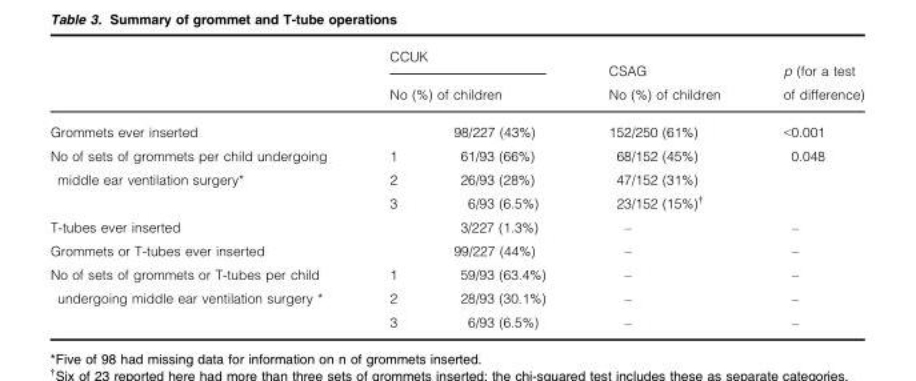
<table><thead><tr><td rowspan="3">Grommets ever inserted</td><td rowspan="2" colspan="2">CCUK No (%) of children</td><td rowspan="3">CSAG No (%) of children 152/250 (61%)</td><td rowspan="3">p (for a test of difference) &lt;0.001</td></tr><tr></tr><tr><td></td><td>98/227 (43%)</td></tr></thead><tbody><tr><td rowspan="3">No of sets of grommets per child undergoing middle ear ventilation surgery*</td><td>1</td><td>61/93 (66%)</td><td>68/152 (45%)</td><td rowspan="3">0.048</td></tr><tr><td>2</td><td>26/93 (28%)</td><td>47/152 (31%)</td></tr><tr><td>3</td><td>6/93 (6.5%)</td><td>23/152 (15%)†</td></tr><tr><td>T-tubes ever inserted</td><td></td><td>3/227 (1.3%)</td><td>–</td><td>–</td></tr><tr><td>Grommets or T-tubes ever inserted</td><td></td><td>99/227 (44%)</td><td>–</td><td>–</td></tr><tr><td rowspan="3">No of sets of grommets or T-tubes per child undergoing middle ear ventilation surgery *</td><td>1</td><td>59/93 (63.4%)</td><td>–</td><td>–</td></tr><tr><td>2</td><td>28/93 (30.1%)</td><td>–</td><td>–</td></tr><tr><td>3</td><td>6/93 (6.5%)</td><td>–</td><td>–</td></tr></tbody></table>